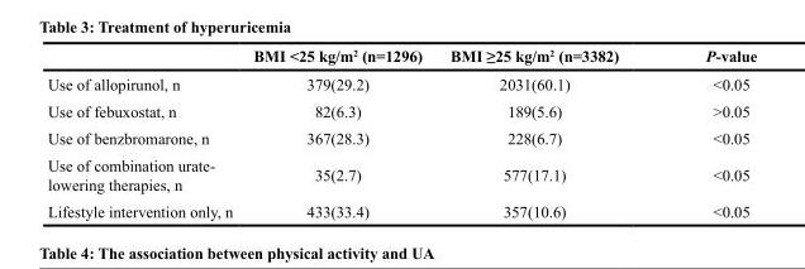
<table><thead><tr><td></td><td>BMI &lt;25 kg/m<sup>2</sup> (n=1296)</td><td>BMI ≥25 kg/m<sup>2</sup> (n=3382)</td><td>P-value</td></tr></thead><tbody><tr><td>Use of allopirunol, n</td><td>379(29.2)</td><td>2031(60.1)</td><td>&lt;0.05</td></tr><tr><td>Use of febuxostat, n</td><td>82(6.3)</td><td>189(5.6)</td><td>&gt;0.05</td></tr><tr><td>Use of benzbromarone, n</td><td>367(28.3)</td><td>228(6.7)</td><td>&lt;0.05</td></tr><tr><td>Use of combination urate- lowering therapies, n</td><td>35(2.7)</td><td>577(17.1)</td><td>&lt;0.05</td></tr><tr><td>Lifestyle intervention only, n</td><td>433(33.4)</td><td>357(10.6)</td><td>&lt;0.05</td></tr></tbody></table>